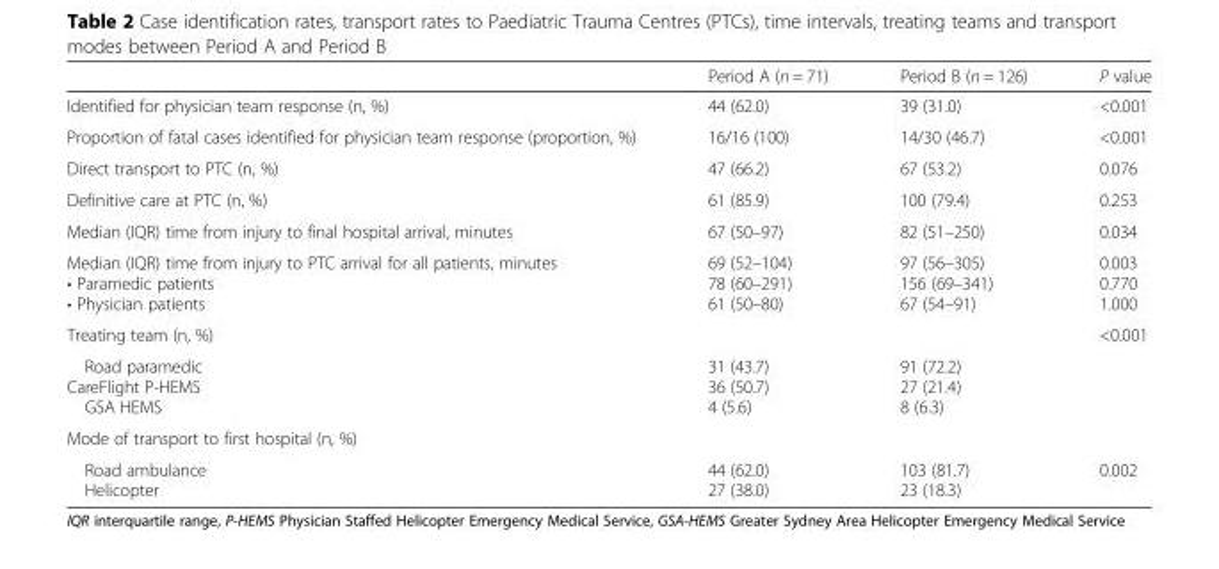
<table><thead><tr><td></td><td>Period A (n = 71)</td><td>Period B (n = 126)</td><td>P value</td></tr></thead><tbody><tr><td>Identified for physician team response (n, %)</td><td>44 (62.0)</td><td>39 (31.0)</td><td>&lt;0.001</td></tr><tr><td>Proportion of fatal cases identified for physician team response (proportion, %)</td><td>16/16 (100)</td><td>14/30 (46.7)</td><td>&lt;0.001</td></tr><tr><td>Direct transport to PTC (n, %)</td><td>47 (66.2)</td><td>67 (53.2)</td><td>0.076</td></tr><tr><td>Definitive care at PTC (n, %)</td><td>61 (85.9)</td><td>100 (79.4)</td><td>0.253</td></tr><tr><td>Median (IQR) time from injury to final hospital arrival, minutes</td><td>67 (50–97)</td><td>82 (51–250)</td><td>0.034</td></tr><tr><td>Median (IQR) time from injury to PTC arrival for all patients, minutes • Paramedic patients • Physician patients</td><td>69 (52–104) 78 (60–291) 61 (50–80)</td><td>97 (56–305) 156 (69–341) 67 (54–91)</td><td>0.003 0.770 1.000</td></tr><tr><td colspan="3">Treating team (n, %)</td><td rowspan="2">&lt;0.001</td></tr><tr><td>Road paramedic CareFlight P-HEMS GSA HEMS</td><td>31 (43.7) 36 (50.7) 4 (5.6)</td><td>91 (72.2) 27 (21.4) 8 (6.3)</td></tr><tr><td colspan="4">Mode of transport to first hospital (n, %)</td></tr><tr><td>Road ambulance Helicopter</td><td>44 (62.0) 27 (38.0)</td><td>103 (81.7) 23 (18.3)</td><td>0.002</td></tr></tbody></table>